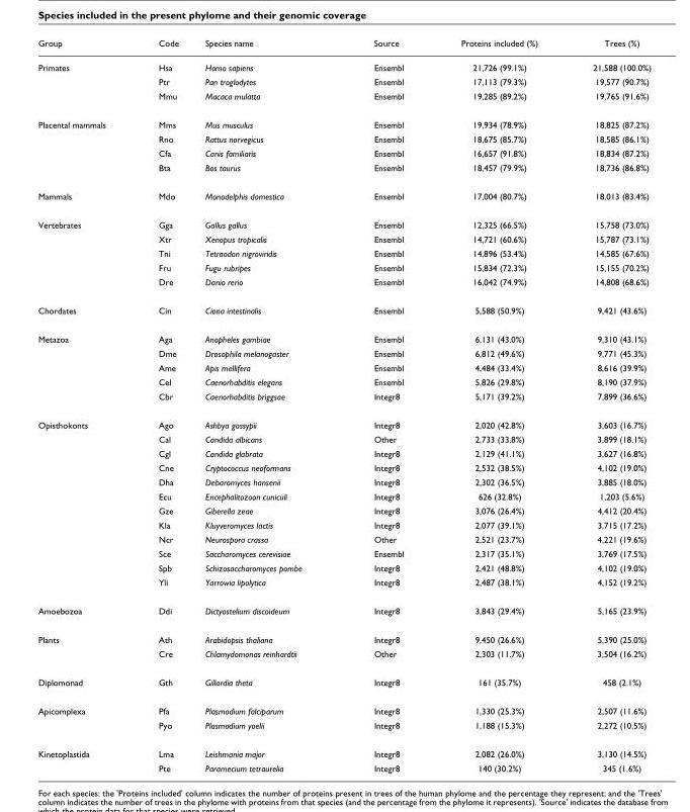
<table><thead><tr><td>Group</td><td>Code</td><td>Species name</td><td>Source</td><td>Proteins included (%)</td><td>Trees (%)</td></tr></thead><tbody><tr><td rowspan="3">Primates</td><td>Hsa</td><td>Homo sapiens</td><td>Ensembl</td><td>21,726 (99.1%)</td><td>21,588 (100.0%)</td></tr><tr><td>Ptr</td><td>Pan troglodytes</td><td>Ensembl</td><td>17,113 (79.3%)</td><td>19,577 (90.7%)</td></tr><tr><td>Mmu</td><td>Macaca mulatta</td><td>Ensembl</td><td>19,285 (89.2%)</td><td>19,765 (91.6%)</td></tr><tr><td rowspan="4">Placental mammals</td><td>Mms</td><td>Mus musculus</td><td>Ensembl</td><td>19,934 (78.9%)</td><td>18,825 (87.2%)</td></tr><tr><td>Rno</td><td>Rattus norvegicus</td><td>Ensembl</td><td>18,675 (85.7%)</td><td>18,585 (86.1%)</td></tr><tr><td>Cfa</td><td>Canis familiaris</td><td>Ensembl</td><td>16,657 (91.8%)</td><td>18,834 (87.2%)</td></tr><tr><td>Bta</td><td>Bos taurus</td><td>Ensembl</td><td>18,457 (79.9%)</td><td>18,736 (86.8%)</td></tr><tr><td>Mammals</td><td>Mdo</td><td>Monodelphis domestica</td><td>Ensembl</td><td>17,004 (80.7%)</td><td>18,013 (83.4%)</td></tr><tr><td rowspan="5">Vertebrates</td><td>Gga</td><td>Gallus gallus</td><td>Ensembl</td><td>12,325 (66.5%)</td><td>15,758 (73.0%)</td></tr><tr><td>Xtr</td><td>Xenopus tropicalis</td><td>Ensembl</td><td>14,721 (60.6%)</td><td>15,787 (73.1%)</td></tr><tr><td>Tni</td><td>Tetraodon nigroviridis</td><td>Ensembl</td><td>14,896 (53.4%)</td><td>14,585 (67.6%)</td></tr><tr><td>Fru</td><td>Fugu rubripes</td><td>Ensembl</td><td>15,834 (72.3%)</td><td>15,155 (70.2%)</td></tr><tr><td>Dre</td><td>Danio rerio</td><td>Ensembl</td><td>16,042 (74.9%)</td><td>14,808 (68.6%)</td></tr><tr><td>Chordates</td><td>Cin</td><td>Ciona intestinalis</td><td>Ensembl</td><td>5,588 (50.9%)</td><td>9,421 (43.6%)</td></tr><tr><td rowspan="5">Metazoa</td><td>Aga</td><td>Anopheles gambiae</td><td>Ensembl</td><td>6,131 (43.0%)</td><td>9,310 (43.1%)</td></tr><tr><td>Dme</td><td>Drosophila melanogaster</td><td>Ensembl</td><td>6,812 (49.6%)</td><td>9,771 (45.3%)</td></tr><tr><td>Ame</td><td>Apis mellifera</td><td>Ensembl</td><td>4,484 (33.4%)</td><td>8,616 (39.9%)</td></tr><tr><td>Cel</td><td>Caenorhabditis elegans</td><td>Ensembl</td><td>5,826 (29.8%)</td><td>8,190 (37.9%)</td></tr><tr><td>Cbr</td><td>Caenorhabditis briggsae</td><td>Integr8</td><td>5,171 (39.2%)</td><td>7,899 (36.6%)</td></tr><tr><td rowspan="12">Opisthokonts</td><td>Ago</td><td>Ashbya gossypii</td><td>Integr8</td><td>2,020 (42.8%)</td><td>3,603 (16.7%)</td></tr><tr><td>Cal</td><td>Candida albicans</td><td>Other</td><td>2,733 (33.8%)</td><td>3,899 (18.1%)</td></tr><tr><td>Cgl</td><td>Candida glabrata</td><td>Integr8</td><td>2,129 (41.1%)</td><td>3,627 (16.8%)</td></tr><tr><td>Cne</td><td>Cryptococcus neoformans</td><td>Integr8</td><td>2,532 (38.5%)</td><td>4,102 (19.0%)</td></tr><tr><td>Dha</td><td>Debaromyces hansenii</td><td>Integr8</td><td>2,302 (36.5%)</td><td>3,885 (18.0%)</td></tr><tr><td>Ecu</td><td>Encephalitozoon cuniculi</td><td>Integr8</td><td>626 (32.8%)</td><td>1,203 (5.6%)</td></tr><tr><td>Gze</td><td>Giberella zeae</td><td>Integr8</td><td>3,076 (26.4%)</td><td>4,412 (20.4%)</td></tr><tr><td>Kla</td><td>Kluyveromyces lactis</td><td>Integr8</td><td>2,077 (39.1%)</td><td>3,715 (17.2%)</td></tr><tr><td>Ncr</td><td>Neurospora crassa</td><td>Other</td><td>2,521 (23.7%)</td><td>4,221 (19.6%)</td></tr><tr><td>Sce</td><td>Saccharomyces cerevisiae</td><td>Ensembl</td><td>2,317 (35.1%)</td><td>3,769 (17.5%)</td></tr><tr><td>Spb</td><td>Schizosaccharomyces pombe</td><td>Integr8</td><td>2,421 (48.8%)</td><td>4,102 (19.0%)</td></tr><tr><td>Yli</td><td>Yarrowia lipolytica</td><td>Integr8</td><td>2,487 (38.1%)</td><td>4,152 (19.2%)</td></tr><tr><td>Amoebozoa</td><td>Ddi</td><td>Dictyostelium discoideum</td><td>Integr8</td><td>3,843 (29.4%)</td><td>5,165 (23.9%)</td></tr><tr><td rowspan="2">Plants</td><td>Ath</td><td>Arabidopsis thaliana</td><td>Integr8</td><td>9,450 (26.6%)</td><td>5,390 (25.0%)</td></tr><tr><td>Cre</td><td>Chlamydomonas reinhardtii</td><td>Other</td><td>2,303 (11.7%)</td><td>3,504 (16.2%)</td></tr><tr><td>Diplomonad</td><td>Gth</td><td>Gillardia theta</td><td>Integr8</td><td>161 (35.7%)</td><td>458 (2.1%)</td></tr><tr><td rowspan="2">Apicomplexa</td><td>Pfa</td><td>Plasmodium falciparum</td><td>Integr8</td><td>1,330 (25.3%)</td><td>2,507 (11.6%)</td></tr><tr><td>Pyo</td><td>Plasmodium yoelii</td><td>Integr8</td><td>1,188 (15.3%)</td><td>2,272 (10.5%)</td></tr><tr><td rowspan="2">Kinetoplastida</td><td>Lma</td><td>Leishmania major</td><td>Integr8</td><td>2,082 (26.0%)</td><td>3,130 (14.5%)</td></tr><tr><td>Pte</td><td>Paramecium tetraurelia</td><td>Integr8</td><td>140 (30.2%)</td><td>345 (1.6%)</td></tr></tbody></table>